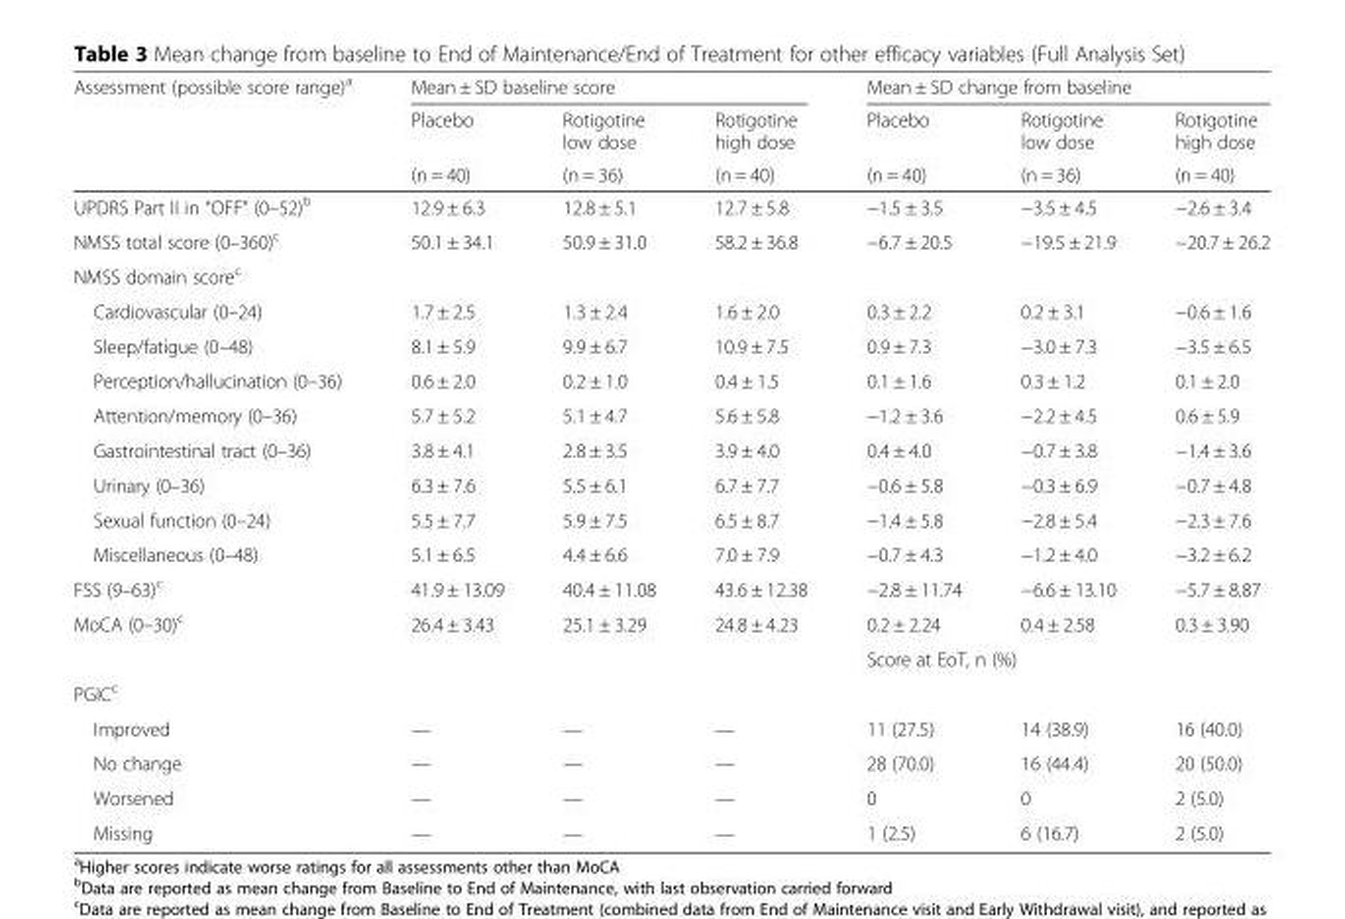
<table><thead><tr><td rowspan="3">Assessment (possible score range)<sup>a</sup></td><td colspan="3">Mean ± SD baseline score</td><td colspan="3">Mean ± SD change from baseline</td></tr><tr><td rowspan="2">Placebo (n = 40)</td><td rowspan="2">Rotigotine low dose (n = 36)</td><td rowspan="2">Rotigotine high dose (n = 40)</td><td rowspan="2">Placebo (n = 40)</td><td rowspan="2">Rotigotine low dose (n = 36)</td><td rowspan="2">Rotigotine high dose (n = 40)</td></tr><tr></tr></thead><tbody><tr><td>UPDRS Part II in “OFF” (0–52)<sup>b</sup></td><td>12.9 ± 6.3</td><td>12.8 ± 5.1</td><td>12.7 ± 5.8</td><td>−1.5 ± 3.5</td><td>−3.5 ± 4.5</td><td>−2.6 ± 3.4</td></tr><tr><td>NMSS total score (0–360)<sup>c</sup></td><td>50.1 ± 34.1</td><td>50.9 ± 31.0</td><td>58.2 ± 36.8</td><td>−6.7 ± 20.5</td><td>−19.5 ± 21.9</td><td>−20.7 ± 26.2</td></tr><tr><td colspan="7">NMSS domain score<sup>c</sup></td></tr><tr><td>Cardiovascular (0–24)</td><td>1.7 ± 2.5</td><td>1.3 ± 2.4</td><td>1.6 ± 2.0</td><td>0.3 ± 2.2</td><td>0.2 ± 3.1</td><td>−0.6 ± 1.6</td></tr><tr><td>Sleep/fatigue (0–48)</td><td>8.1 ± 5.9</td><td>9.9 ± 6.7</td><td>10.9 ± 7.5</td><td>0.9 ± 7.3</td><td>−3.0 ± 7.3</td><td>−3.5 ± 6.5</td></tr><tr><td>Perception/hallucination (0–36)</td><td>0.6 ± 2.0</td><td>0.2 ± 1.0</td><td>0.4 ± 1.5</td><td>0.1 ± 1.6</td><td>0.3 ± 1.2</td><td>0.1 ± 2.0</td></tr><tr><td>Attention/memory (0–36)</td><td>5.7 ± 5.2</td><td>5.1 ± 4.7</td><td>5.6 ± 5.8</td><td>−1.2 ± 3.6</td><td>−2.2 ± 4.5</td><td>0.6 ± 5.9</td></tr><tr><td>Gastrointestinal tract (0–36)</td><td>3.8 ± 4.1</td><td>2.8 ± 3.5</td><td>3.9 ± 4.0</td><td>0.4 ± 4.0</td><td>−0.7 ± 3.8</td><td>−1.4 ± 3.6</td></tr><tr><td>Urinary (0–36)</td><td>6.3 ± 7.6</td><td>5.5 ± 6.1</td><td>6.7 ± 7.7</td><td>−0.6 ± 5.8</td><td>−0.3 ± 6.9</td><td>−0.7 ± 4.8</td></tr><tr><td>Sexual function (0–24)</td><td>5.5 ± 7.7</td><td>5.9 ± 7.5</td><td>6.5 ± 8.7</td><td>−1.4 ± 5.8</td><td>−2.8 ± 5.4</td><td>−2.3 ± 7.6</td></tr><tr><td>Miscellaneous (0–48)</td><td>5.1 ± 6.5</td><td>4.4 ± 6.6</td><td>7.0 ± 7.9</td><td>−0.7 ± 4.3</td><td>−1.2 ± 4.0</td><td>−3.2 ± 6.2</td></tr><tr><td>FSS (9–63)<sup>c</sup></td><td>41.9 ± 13.09</td><td>40.4 ± 11.08</td><td>43.6 ± 12.38</td><td>−2.8 ± 11.74</td><td>−6.6 ± 13.10</td><td>−5.7 ± 8.87</td></tr><tr><td rowspan="2">MoCA (0–30)<sup>c</sup></td><td>26.4 ± 3.43</td><td>25.1 ± 3.29</td><td>24.8 ± 4.23</td><td>0.2 ± 2.24</td><td>0.4 ± 2.58</td><td>0.3 ± 3.90</td></tr><tr><td></td><td></td><td></td><td colspan="3">Score at EoT, n (%)</td></tr><tr><td colspan="7">PGIC<sup>c</sup></td></tr><tr><td>Improved</td><td>—</td><td>—</td><td>—</td><td>11 (27.5)</td><td>14 (38.9)</td><td>16 (40.0)</td></tr><tr><td>No change</td><td>—</td><td>—</td><td>—</td><td>28 (70.0)</td><td>16 (44.4)</td><td>20 (50.0)</td></tr><tr><td>Worsened</td><td>—</td><td>—</td><td>—</td><td>0</td><td>0</td><td>2 (5.0)</td></tr><tr><td>Missing</td><td>—</td><td>—</td><td>—</td><td>1 (2.5)</td><td>6 (16.7)</td><td>2 (5.0)</td></tr></tbody></table>